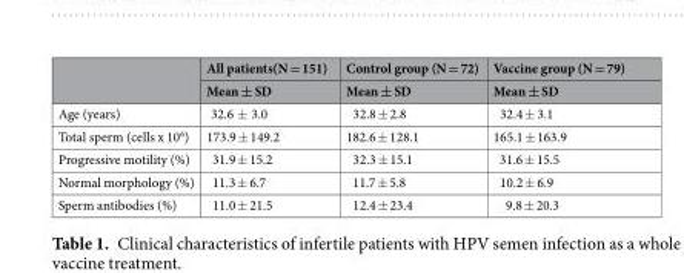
<table><thead><tr><td rowspan="2"></td><td rowspan="2">All patients(N = 151) Mean ± SD</td><td rowspan="2">Control group (N = 72) Mean ± SD</td><td rowspan="2">Vaccine group (N = 79) Mean ± SD</td></tr><tr></tr></thead><tbody><tr><td>Age (years)</td><td>32.6 ± 3.0</td><td>32.8 ± 2.8</td><td>32.4 ± 3.1</td></tr><tr><td>Total sperm (cells x 10<sup>6</sup>)</td><td>173.9 ± 149.2</td><td>182.6 ± 128.1</td><td>165.1 ± 163.9</td></tr><tr><td>Progressive motility (%)</td><td>31.9 ± 15.2</td><td>32.3 ± 15.1</td><td>31.6 ± 15.5</td></tr><tr><td>Normal morphology (%)</td><td>11.3 ± 6.7</td><td>11.7 ± 5.8</td><td>10.2 ± 6.9</td></tr><tr><td>Sperm antibodies (%)</td><td>11.0 ± 21.5</td><td>12.4 ± 23.4</td><td>9.8 ± 20.3</td></tr></tbody></table>